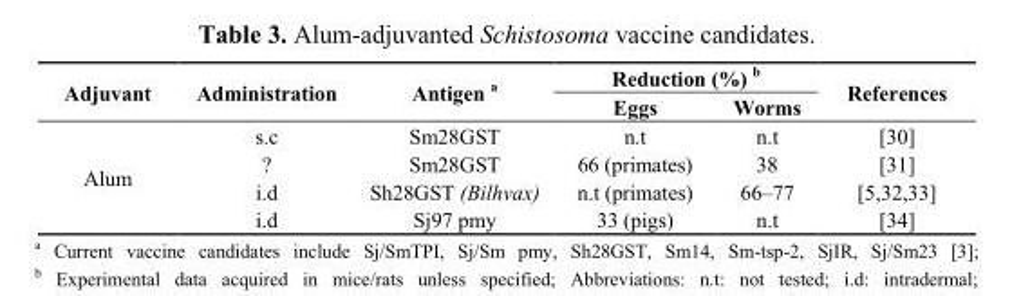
<table><thead><tr><td rowspan="2">Adjuvant</td><td rowspan="2">Administration</td><td rowspan="2">Antigen <sup>a</sup></td><td colspan="2">Reduction (%) <sup>b</sup></td><td rowspan="2">References</td></tr><tr><td>Eggs</td><td>Worms</td></tr></thead><tbody><tr><td rowspan="4">Alum</td><td>s.c</td><td>Sm28GST</td><td>n.t</td><td>n.t</td><td>[30]</td></tr><tr><td>?</td><td>Sm28GST</td><td>66 (primates)</td><td>38</td><td>[31]</td></tr><tr><td>i.d</td><td>Sh28GST (Bilhvax)</td><td>n.t (primates)</td><td>66–77</td><td>[5,32,33]</td></tr><tr><td>i.d</td><td>Sj97 pmy</td><td>33 (pigs)</td><td>n.t</td><td>[34]</td></tr></tbody></table>